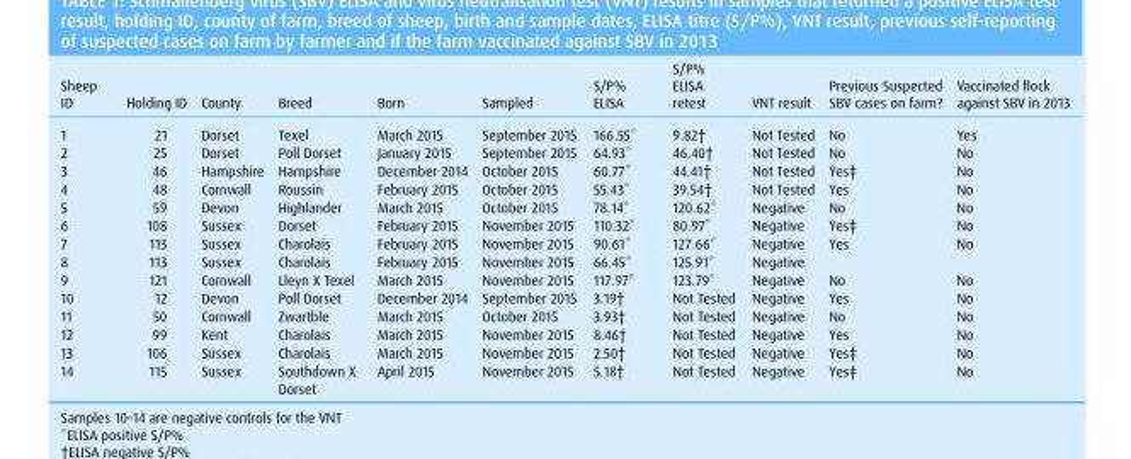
<table><thead><tr><td>Sheep ID</td><td>Holding ID</td><td>County</td><td>Breed</td><td>Born</td><td>Sampled</td><td>S/P% ELISA</td><td>S/P% ELISA retest</td><td>VNT result</td><td>Previous Suspected SBV cases on farm?</td><td>Vaccinated flock against SBV in 2013</td></tr></thead><tbody><tr><td>1</td><td>21</td><td>Dorset</td><td>Texel</td><td>March 2015</td><td>September 2015</td><td>166.55*</td><td>9.82†</td><td>Not Tested</td><td>No</td><td>Yes</td></tr><tr><td>2</td><td>25</td><td>Dorset</td><td>Poll Dorset</td><td>January 2015</td><td>September 2015</td><td>64.93*</td><td>46.40†</td><td>Not Tested</td><td>No</td><td>No</td></tr><tr><td>3</td><td>46</td><td>Hampshire</td><td>Hampshire</td><td>December 2014</td><td>October 2015</td><td>60.77*</td><td>44.41†</td><td>Not Tested</td><td>Yes‡</td><td>No</td></tr><tr><td>4</td><td>48</td><td>Cornwall</td><td>Roussin</td><td>February 2015</td><td>October 2015</td><td>55.43*</td><td>39.54†</td><td>Not Tested</td><td>Yes</td><td>No</td></tr><tr><td>5</td><td>59</td><td>Devon</td><td>Highlander</td><td>March 2015</td><td>October 2015</td><td>78.14*</td><td>120.62*</td><td>Negative</td><td>No</td><td>No</td></tr><tr><td>6</td><td>108</td><td>Sussex</td><td>Dorset</td><td>February 2015</td><td>November 2015</td><td>110.32*</td><td>80.97*</td><td>Negative</td><td>Yes‡</td><td>No</td></tr><tr><td>7</td><td>113</td><td>Sussex</td><td>Charolais</td><td>February 2015</td><td>November 2015</td><td>90.61*</td><td>127.66*</td><td>Negative</td><td rowspan="2">Yes</td><td rowspan="2">No</td></tr><tr><td>8</td><td>113</td><td>Sussex</td><td>Charolais</td><td>February 2015</td><td>November 2015</td><td>66.45*</td><td>125.91*</td><td>Negative</td></tr><tr><td>9</td><td>121</td><td>Cornwall</td><td>Lleyn X Texel</td><td>March 2015</td><td>November 2015</td><td>117.97*</td><td>123.79*</td><td>Negative</td><td>No</td><td>No</td></tr><tr><td>10</td><td>12</td><td>Devon</td><td>Poll Dorset</td><td>December 2014</td><td>September 2015</td><td>3.19†</td><td>Not Tested</td><td>Negative</td><td>Yes</td><td>No</td></tr><tr><td>11</td><td>50</td><td>Cornwall</td><td>Zwartble</td><td>March 2015</td><td>October 2015</td><td>3.93†</td><td>Not Tested</td><td>Negative</td><td>No</td><td>No</td></tr><tr><td>12</td><td>99</td><td>Kent</td><td>Charolais</td><td>March 2015</td><td>November 2015</td><td>8.46†</td><td>Not Tested</td><td>Negative</td><td>Yes</td><td>No</td></tr><tr><td>13</td><td>106</td><td>Sussex</td><td>Charolais</td><td>March 2015</td><td>November 2015</td><td>2.50†</td><td>Not Tested</td><td>Negative</td><td>Yes‡</td><td>No</td></tr><tr><td>14</td><td>115</td><td>Sussex</td><td>Southdown X Dorset</td><td>April 2015</td><td>November 2015</td><td>5.18†</td><td>Not Tested</td><td>Negative</td><td>Yes‡</td><td>No</td></tr></tbody></table>